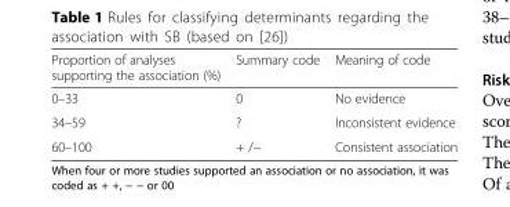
<table><thead><tr><td>Proportion of analyses supporting the association (%)</td><td>Summary code</td><td>Meaning of code</td></tr></thead><tbody><tr><td>0–33</td><td>0</td><td>No evidence</td></tr><tr><td>34–59</td><td>?</td><td>Inconsistent evidence</td></tr><tr><td>60–100</td><td>+ /−</td><td>Consistent association</td></tr></tbody></table>